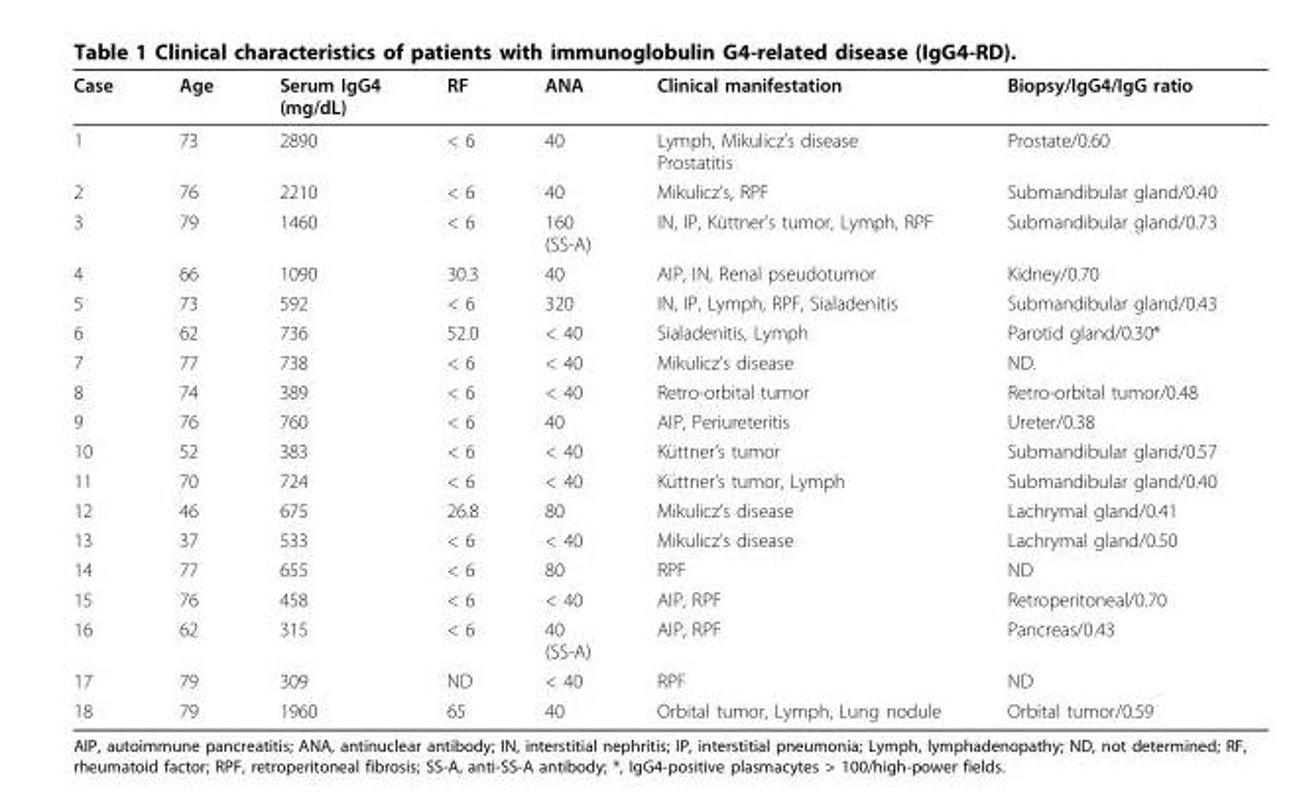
<table><thead><tr><td>Case</td><td>Age</td><td>Serum IgG4 (mg/dL)</td><td>RF</td><td>ANA</td><td>Clinical manifestation</td><td>Biopsy/IgG4/IgG ratio</td></tr></thead><tbody><tr><td>1</td><td>73</td><td>2890</td><td>&lt; 6</td><td>40</td><td>Lymph, Mikulicz’s disease Prostatitis</td><td>Prostate/0.60</td></tr><tr><td>2</td><td>76</td><td>2210</td><td>&lt; 6</td><td>40</td><td>Mikulicz’s, RPF</td><td>Submandibular gland/0.40</td></tr><tr><td>3</td><td>79</td><td>1460</td><td>&lt; 6</td><td>160 (SS-A)</td><td>IN, IP, Küttner’s tumor, Lymph, RPF</td><td>Submandibular gland/0.73</td></tr><tr><td>4</td><td>66</td><td>1090</td><td>30.3</td><td>40</td><td>AIP, IN, Renal pseudotumor</td><td>Kidney/0.70</td></tr><tr><td>5</td><td>73</td><td>592</td><td>&lt; 6</td><td>320</td><td>IN, IP, Lymph, RPF, Sialadenitis</td><td>Submandibular gland/0.43</td></tr><tr><td>6</td><td>62</td><td>736</td><td>52.0</td><td>&lt; 40</td><td>Sialadenitis, Lymph</td><td>Parotid gland/0.30*</td></tr><tr><td>7</td><td>77</td><td>738</td><td>&lt; 6</td><td>&lt; 40</td><td>Mikulicz’s disease</td><td>ND.</td></tr><tr><td>8</td><td>74</td><td>389</td><td>&lt; 6</td><td>&lt; 40</td><td>Retro-orbital tumor</td><td>Retro-orbital tumor/0.48</td></tr><tr><td>9</td><td>76</td><td>760</td><td>&lt; 6</td><td>40</td><td>AIP, Periureteritis</td><td>Ureter/0.38</td></tr><tr><td>10</td><td>52</td><td>383</td><td>&lt; 6</td><td>&lt; 40</td><td>Küttner’s tumor</td><td>Submandibular gland/0.57</td></tr><tr><td>11</td><td>70</td><td>724</td><td>&lt; 6</td><td>&lt; 40</td><td>Küttner’s tumor, Lymph</td><td>Submandibular gland/0.40</td></tr><tr><td>12</td><td>46</td><td>675</td><td>26.8</td><td>80</td><td>Mikulicz’s disease</td><td>Lachrymal gland/0.41</td></tr><tr><td>13</td><td>37</td><td>533</td><td>&lt; 6</td><td>&lt; 40</td><td>Mikulicz’s disease</td><td>Lachrymal gland/0.50</td></tr><tr><td>14</td><td>77</td><td>655</td><td>&lt; 6</td><td>80</td><td>RPF</td><td>ND</td></tr><tr><td>15</td><td>76</td><td>458</td><td>&lt; 6</td><td>&lt; 40</td><td>AIP, RPF</td><td>Retroperitoneal/0.70</td></tr><tr><td>16</td><td>62</td><td>315</td><td>&lt; 6</td><td>40 (SS-A)</td><td>AIP, RPF</td><td>Pancreas/0.43</td></tr><tr><td>17</td><td>79</td><td>309</td><td>ND</td><td>&lt; 40</td><td>RPF</td><td>ND</td></tr><tr><td>18</td><td>79</td><td>1960</td><td>65</td><td>40</td><td>Orbital tumor, Lymph, Lung nodule</td><td>Orbital tumor/0.59</td></tr></tbody></table>